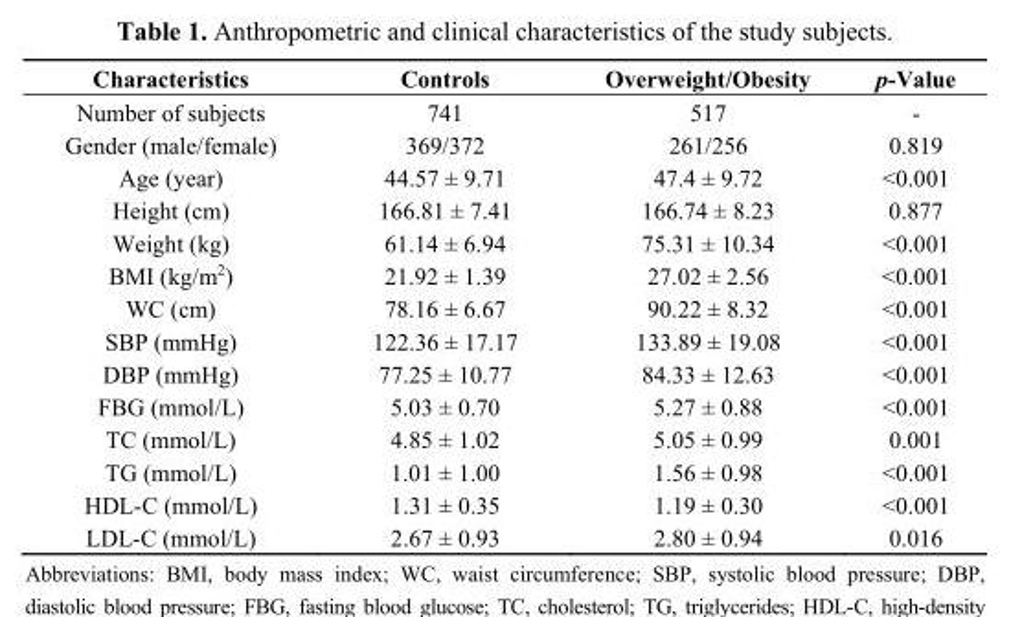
<table><thead><tr><td>Characteristics</td><td>Controls</td><td>Overweight/Obesity</td><td>p-Value</td></tr></thead><tbody><tr><td>Number of subjects</td><td>741</td><td>517</td><td>-</td></tr><tr><td>Gender (male/female)</td><td>369/372</td><td>261/256</td><td>0.819</td></tr><tr><td>Age (year)</td><td>44.57 ± 9.71</td><td>47.4 ± 9.72</td><td>&lt;0.001</td></tr><tr><td>Height (cm)</td><td>166.81 ± 7.41</td><td>166.74 ± 8.23</td><td>0.877</td></tr><tr><td>Weight (kg)</td><td>61.14 ± 6.94</td><td>75.31 ± 10.34</td><td>&lt;0.001</td></tr><tr><td>BMI (kg/m<sup>2</sup>)</td><td>21.92 ± 1.39</td><td>27.02 ± 2.56</td><td>&lt;0.001</td></tr><tr><td>WC (cm)</td><td>78.16 ± 6.67</td><td>90.22 ± 8.32</td><td>&lt;0.001</td></tr><tr><td>SBP (mmHg)</td><td>122.36 ± 17.17</td><td>133.89 ± 19.08</td><td>&lt;0.001</td></tr><tr><td>DBP (mmHg)</td><td>77.25 ± 10.77</td><td>84.33 ± 12.63</td><td>&lt;0.001</td></tr><tr><td>FBG (mmol/L)</td><td>5.03 ± 0.70</td><td>5.27 ± 0.88</td><td>&lt;0.001</td></tr><tr><td>TC (mmol/L)</td><td>4.85 ± 1.02</td><td>5.05 ± 0.99</td><td>0.001</td></tr><tr><td>TG (mmol/L)</td><td>1.01 ± 1.00</td><td>1.56 ± 0.98</td><td>&lt;0.001</td></tr><tr><td>HDL-C (mmol/L)</td><td>1.31 ± 0.35</td><td>1.19 ± 0.30</td><td>&lt;0.001</td></tr><tr><td>LDL-C (mmol/L)</td><td>2.67 ± 0.93</td><td>2.80 ± 0.94</td><td>0.016</td></tr></tbody></table>